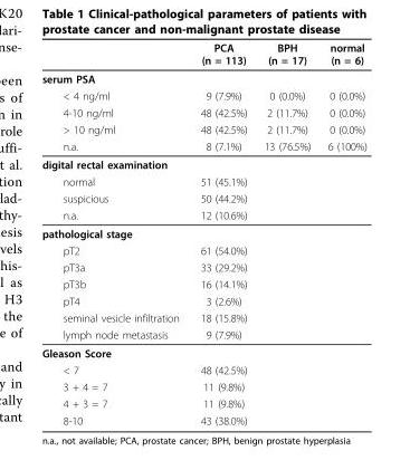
<table><thead><tr><td></td><td>PCA (n = 113)</td><td>BPH (n = 17)</td><td>normal (n = 6)</td></tr></thead><tbody><tr><td colspan="4">serum PSA</td></tr><tr><td>&lt; 4 ng/ml</td><td>9 (7.9%)</td><td>0 (0.0%)</td><td>0 (0.0%)</td></tr><tr><td>4-10 ng/ml</td><td>48 (42.5%)</td><td>2 (11.7%)</td><td>0 (0.0%)</td></tr><tr><td>&gt; 10 ng/ml</td><td>48 (42.5%)</td><td>2 (11.7%)</td><td>0 (0.0%)</td></tr><tr><td>n.a.</td><td>8 (7.1%)</td><td>13 (76.5%)</td><td>6 (100%)</td></tr><tr><td colspan="4">digital rectal examination</td></tr><tr><td>normal</td><td>51 (45.1%)</td><td></td><td></td></tr><tr><td>suspicious</td><td>50 (44.2%)</td><td></td><td></td></tr><tr><td>n.a.</td><td>12 (10.6%)</td><td></td><td></td></tr><tr><td colspan="4">pathological stage</td></tr><tr><td>pT2</td><td>61 (54.0%)</td><td></td><td></td></tr><tr><td>pT3a</td><td>33 (29.2%)</td><td></td><td></td></tr><tr><td>pT3b</td><td>16 (14.1%)</td><td></td><td></td></tr><tr><td>pT4</td><td>3 (2.6%)</td><td></td><td></td></tr><tr><td>seminal vesicle infiltration</td><td>18 (15.8%)</td><td></td><td></td></tr><tr><td>lymph node metastasis</td><td>9 (7.9%)</td><td></td><td></td></tr><tr><td colspan="4">Gleason Score</td></tr><tr><td>&lt; 7</td><td>48 (42.5%)</td><td></td><td></td></tr><tr><td>3 + 4 = 7</td><td>11 (9.8%)</td><td></td><td></td></tr><tr><td>4 + 3 = 7</td><td>11 (9.8%)</td><td></td><td></td></tr><tr><td>8-10</td><td>43 (38.0%)</td><td></td><td></td></tr></tbody></table>